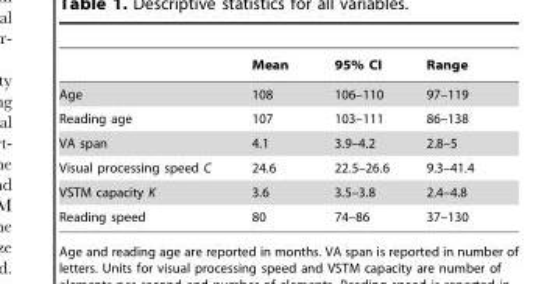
<table><thead><tr><td></td><td>Mean</td><td>95% CI</td><td>Range</td></tr></thead><tbody><tr><td>Age</td><td>108</td><td>106–110</td><td>97–119</td></tr><tr><td>Reading age</td><td>107</td><td>103–111</td><td>86–138</td></tr><tr><td>VA span</td><td>4.1</td><td>3.9–4.2</td><td>2.8–5</td></tr><tr><td>Visual processing speed C</td><td>24.6</td><td>22.5–26.6</td><td>9.3–41.4</td></tr><tr><td>VSTM capacity K</td><td>3.6</td><td>3.5–3.8</td><td>2.4–4.8</td></tr><tr><td>Reading speed</td><td>80</td><td>74–86</td><td>37–130</td></tr></tbody></table>